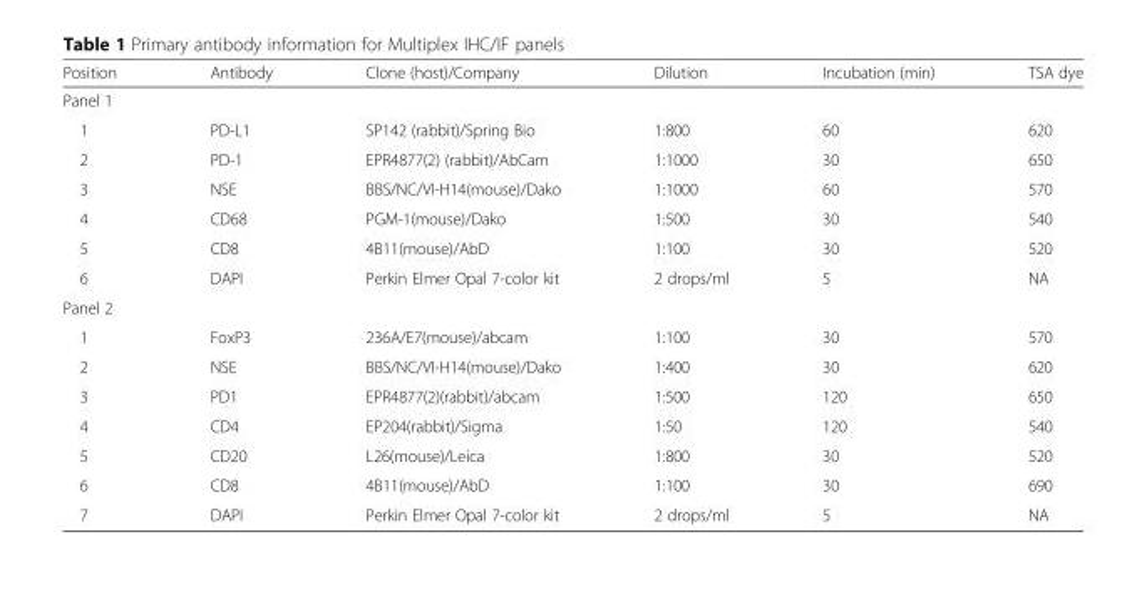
<table><thead><tr><td>Position</td><td>Antibody</td><td>Clone (host)/Company</td><td>Dilution</td><td>Incubation (min)</td><td>TSA dye</td></tr></thead><tbody><tr><td colspan="6">Panel 1</td></tr><tr><td>1</td><td>PD-L1</td><td>SP142 (rabbit)/Spring Bio</td><td>1:800</td><td>60</td><td>620</td></tr><tr><td>2</td><td>PD-1</td><td>EPR4877(2) (rabbit)/AbCam</td><td>1:1000</td><td>30</td><td>650</td></tr><tr><td>3</td><td>NSE</td><td>BBS/NC/VI-H14(mouse)/Dako</td><td>1:1000</td><td>60</td><td>570</td></tr><tr><td>4</td><td>CD68</td><td>PGM-1(mouse)/Dako</td><td>1:500</td><td>30</td><td>540</td></tr><tr><td>5</td><td>CD8</td><td>4B11(mouse)/AbD</td><td>1:100</td><td>30</td><td>520</td></tr><tr><td>6</td><td>DAPI</td><td>Perkin Elmer Opal 7-color kit</td><td>2 drops/ml</td><td>5</td><td>NA</td></tr><tr><td colspan="6">Panel 2</td></tr><tr><td>1</td><td>FoxP3</td><td>236A/E7(mouse)/abcam</td><td>1:100</td><td>30</td><td>570</td></tr><tr><td>2</td><td>NSE</td><td>BBS/NC/VI-H14(mouse)/Dako</td><td>1:400</td><td>30</td><td>620</td></tr><tr><td>3</td><td>PD1</td><td>EPR4877(2)(rabbit)/abcam</td><td>1:500</td><td>120</td><td>650</td></tr><tr><td>4</td><td>CD4</td><td>EP204(rabbit)/Sigma</td><td>1:50</td><td>120</td><td>540</td></tr><tr><td>5</td><td>CD20</td><td>L26(mouse)/Leica</td><td>1:800</td><td>30</td><td>520</td></tr><tr><td>6</td><td>CD8</td><td>4B11(mouse)/AbD</td><td>1:100</td><td>30</td><td>690</td></tr><tr><td>7</td><td>DAPI</td><td>Perkin Elmer Opal 7-color kit</td><td>2 drops/ml</td><td>5</td><td>NA</td></tr></tbody></table>